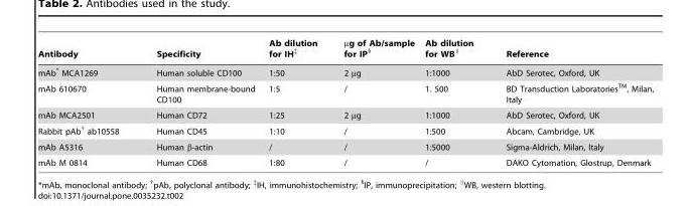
<table><thead><tr><td>Antibody</td><td>Specificity</td><td>Ab dilution for IH‡</td><td>µg of Ab/sample for IP§</td><td>Ab dilution for WB∥</td><td>Reference</td></tr></thead><tbody><tr><td>mAb* MCA1269</td><td>Human soluble CD100</td><td>1:50</td><td>2 µg</td><td>1:1000</td><td>AbD Serotec, Oxford, UK</td></tr><tr><td>mAb 610670</td><td>Human membrane-bound CD100</td><td>1:5</td><td>/</td><td>1. 500</td><td>BD Transduction LaboratoriesTM, Milan, Italy</td></tr><tr><td>mAb MCA2501</td><td>Human CD72</td><td>1:25</td><td>2 µg</td><td>1:1000</td><td>AbD Serotec, Oxford, UK</td></tr><tr><td>Rabbit pAb† ab10558</td><td>Human CD45</td><td>1:10</td><td>/</td><td>1:500</td><td>Abcam, Cambridge, UK</td></tr><tr><td>mAb A5316</td><td>Human β-actin</td><td>/</td><td>/</td><td>1:5000</td><td>Sigma-Aldrich, Milan, Italy</td></tr><tr><td>mAb M 0814</td><td>Human CD68</td><td>1:80</td><td>/</td><td>/</td><td>DAKO Cytomation, Glostrup, Denmark</td></tr></tbody></table>